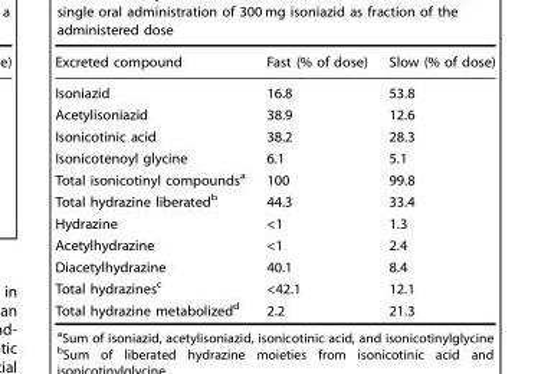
<table><thead><tr><td>Excreted compound</td><td>Fast (% of dose)</td><td>Slow (% of dose)</td></tr></thead><tbody><tr><td>Isoniazid</td><td>16.8</td><td>53.8</td></tr><tr><td>Acetylisoniazid</td><td>38.9</td><td>12.6</td></tr><tr><td>Isonicotinic acid</td><td>38.2</td><td>28.3</td></tr><tr><td>Isonicotenoyl glycine</td><td>6.1</td><td>5.1</td></tr><tr><td>Total isonicotinyl compounds<sup>a</sup></td><td>100</td><td>99.8</td></tr><tr><td>Total hydrazine liberated<sup>b</sup></td><td>44.3</td><td>33.4</td></tr><tr><td>Hydrazine</td><td>&lt;1</td><td>1.3</td></tr><tr><td>Acetylhydrazine</td><td>&lt;1</td><td>2.4</td></tr><tr><td>Diacetylhydrazine</td><td>40.1</td><td>8.4</td></tr><tr><td>Total hydrazines<sup>c</sup></td><td>&lt;42.1</td><td>12.1</td></tr><tr><td>Total hydrazine metabolized<sup>d</sup></td><td>2.2</td><td>21.3</td></tr></tbody></table>